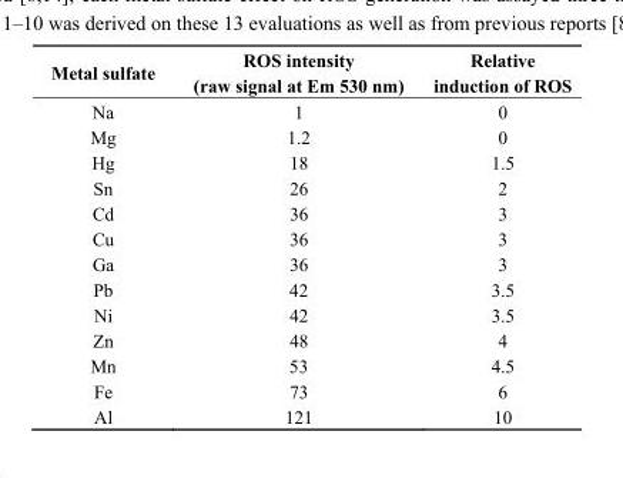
<table><thead><tr><td>Metal sulfate</td><td>ROS intensity (raw signal at Em 530 nm)</td><td>Relative induction of ROS</td></tr></thead><tbody><tr><td>Na</td><td>1</td><td>0</td></tr><tr><td>Mg</td><td>1.2</td><td>0</td></tr><tr><td>Hg</td><td>18</td><td>1.5</td></tr><tr><td>Sn</td><td>26</td><td>2</td></tr><tr><td>Cd</td><td>36</td><td>3</td></tr><tr><td>Cu</td><td>36</td><td>3</td></tr><tr><td>Ga</td><td>36</td><td>3</td></tr><tr><td>Pb</td><td>42</td><td>3.5</td></tr><tr><td>Ni</td><td>42</td><td>3.5</td></tr><tr><td>Zn</td><td>48</td><td>4</td></tr><tr><td>Mn</td><td>53</td><td>4.5</td></tr><tr><td>Fe</td><td>73</td><td>6</td></tr><tr><td>Al</td><td>121</td><td>10</td></tr></tbody></table>